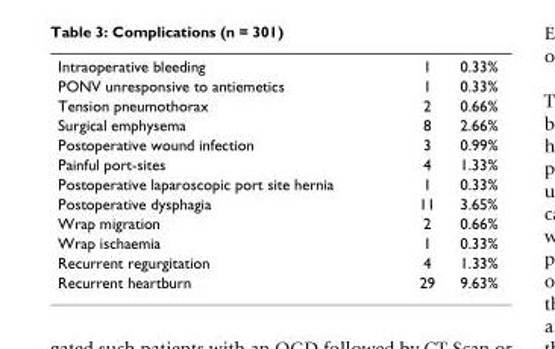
<table><tbody><tr><td>Intraoperative bleeding</td><td>1</td><td>0.33%</td></tr><tr><td>PONV unresponsive to antiemetics</td><td>1</td><td>0.33%</td></tr><tr><td>Tension pneumothorax</td><td>2</td><td>0.66%</td></tr><tr><td>Surgical emphysema</td><td>8</td><td>2.66%</td></tr><tr><td>Postoperative wound infection</td><td>3</td><td>0.99%</td></tr><tr><td>Painful port-sites</td><td>4</td><td>1.33%</td></tr><tr><td>Postoperative laparoscopic port site hernia</td><td>1</td><td>0.33%</td></tr><tr><td>Postoperative dysphagia</td><td>11</td><td>3.65%</td></tr><tr><td>Wrap migration</td><td>2</td><td>0.66%</td></tr><tr><td>Wrap ischaemia</td><td>1</td><td>0.33%</td></tr><tr><td>Recurrent regurgitation</td><td>4</td><td>1.33%</td></tr><tr><td>Recurrent heartburn</td><td>29</td><td>9.63%</td></tr></tbody></table>